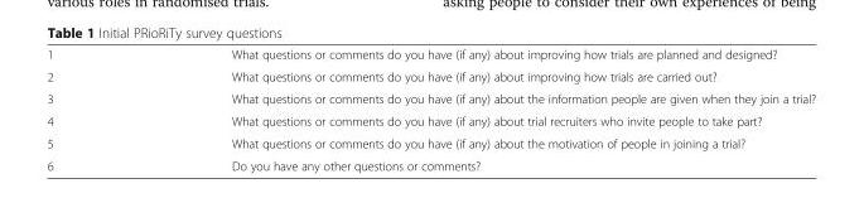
<table><tbody><tr><td>1</td><td>What questions or comments do you have (if any) about improving how trials are planned and designed?</td></tr><tr><td>2</td><td>What questions or comments do you have (if any) about improving how trials are carried out?</td></tr><tr><td>3</td><td>What questions or comments do you have (if any) about the information people are given when they join a trial?</td></tr><tr><td>4</td><td>What questions or comments do you have (if any) about trial recruiters who invite people to take part?</td></tr><tr><td>5</td><td>What questions or comments do you have (if any) about the motivation of people in joining a trial?</td></tr><tr><td>6</td><td>Do you have any other questions or comments?</td></tr></tbody></table>